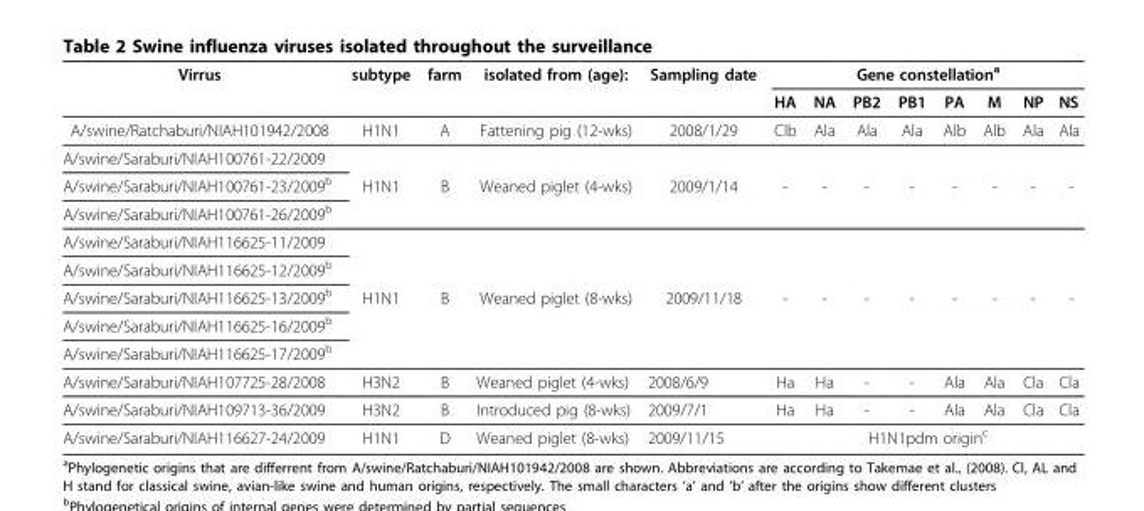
<table><thead><tr><td rowspan="2">Virrus</td><td rowspan="2">subtype</td><td rowspan="2">farm</td><td rowspan="2">isolated from (age):</td><td rowspan="2">Sampling date</td><td colspan="8">Gene constellation<sup>a</sup></td></tr><tr><td>HA</td><td>NA</td><td>PB2</td><td>PB1</td><td>PA</td><td>M</td><td>NP</td><td>NS</td></tr></thead><tbody><tr><td>A/swine/Ratchaburi/NIAH101942/2008</td><td>H1N1</td><td>A</td><td>Fattening pig (12-wks)</td><td>2008/1/29</td><td>Clb</td><td>Ala</td><td>Ala</td><td>Ala</td><td>Alb</td><td>Alb</td><td>Ala</td><td>Ala</td></tr><tr><td colspan="13">A/swine/Saraburi/NIAH100761-22/2009</td></tr><tr><td>A/swine/Saraburi/NIAH100761-23/2009<sup>b</sup></td><td>H1N1</td><td>B</td><td>Weaned piglet (4-wks)</td><td>2009/1/14</td><td>-</td><td>-</td><td>-</td><td>-</td><td>-</td><td>-</td><td>-</td><td>-</td></tr><tr><td colspan="13">A/swine/Saraburi/NIAH100761-26/2009<sup>b</sup></td></tr><tr><td colspan="13">A/swine/Saraburi/NIAH116625-11/2009</td></tr><tr><td colspan="13">A/swine/Saraburi/NIAH116625-12/2009<sup>b</sup></td></tr><tr><td>A/swine/Saraburi/NIAH116625-13/2009<sup>b</sup></td><td>H1N1</td><td>B</td><td>Weaned piglet (8-wks)</td><td>2009/11/18</td><td>-</td><td>-</td><td>-</td><td>-</td><td>-</td><td>-</td><td>-</td><td>-</td></tr><tr><td colspan="13">A/swine/Saraburi/NIAH116625-16/2009<sup>b</sup></td></tr><tr><td colspan="13">A/swine/Saraburi/NIAH116625-17/2009<sup>b</sup></td></tr><tr><td>A/swine/Saraburi/NIAH107725-28/2008</td><td>H3N2</td><td>B</td><td>Weaned piglet (4-wks)</td><td>2008/6/9</td><td>Ha</td><td>Ha</td><td>-</td><td>-</td><td>Ala</td><td>Ala</td><td>Cla</td><td>Cla</td></tr><tr><td>A/swine/Saraburi/NIAH109713-36/2009</td><td>H3N2</td><td>B</td><td>Introduced pig (8-wks)</td><td>2009/7/1</td><td>Ha</td><td>Ha</td><td>-</td><td>-</td><td>Ala</td><td>Ala</td><td>Cla</td><td>Cla</td></tr><tr><td>A/swine/Saraburi/NIAH116627-24/2009</td><td>H1N1</td><td>D</td><td>Weaned piglet (8-wks)</td><td>2009/11/15</td><td colspan="8">H1N1pdm origin<sup>c</sup></td></tr></tbody></table>